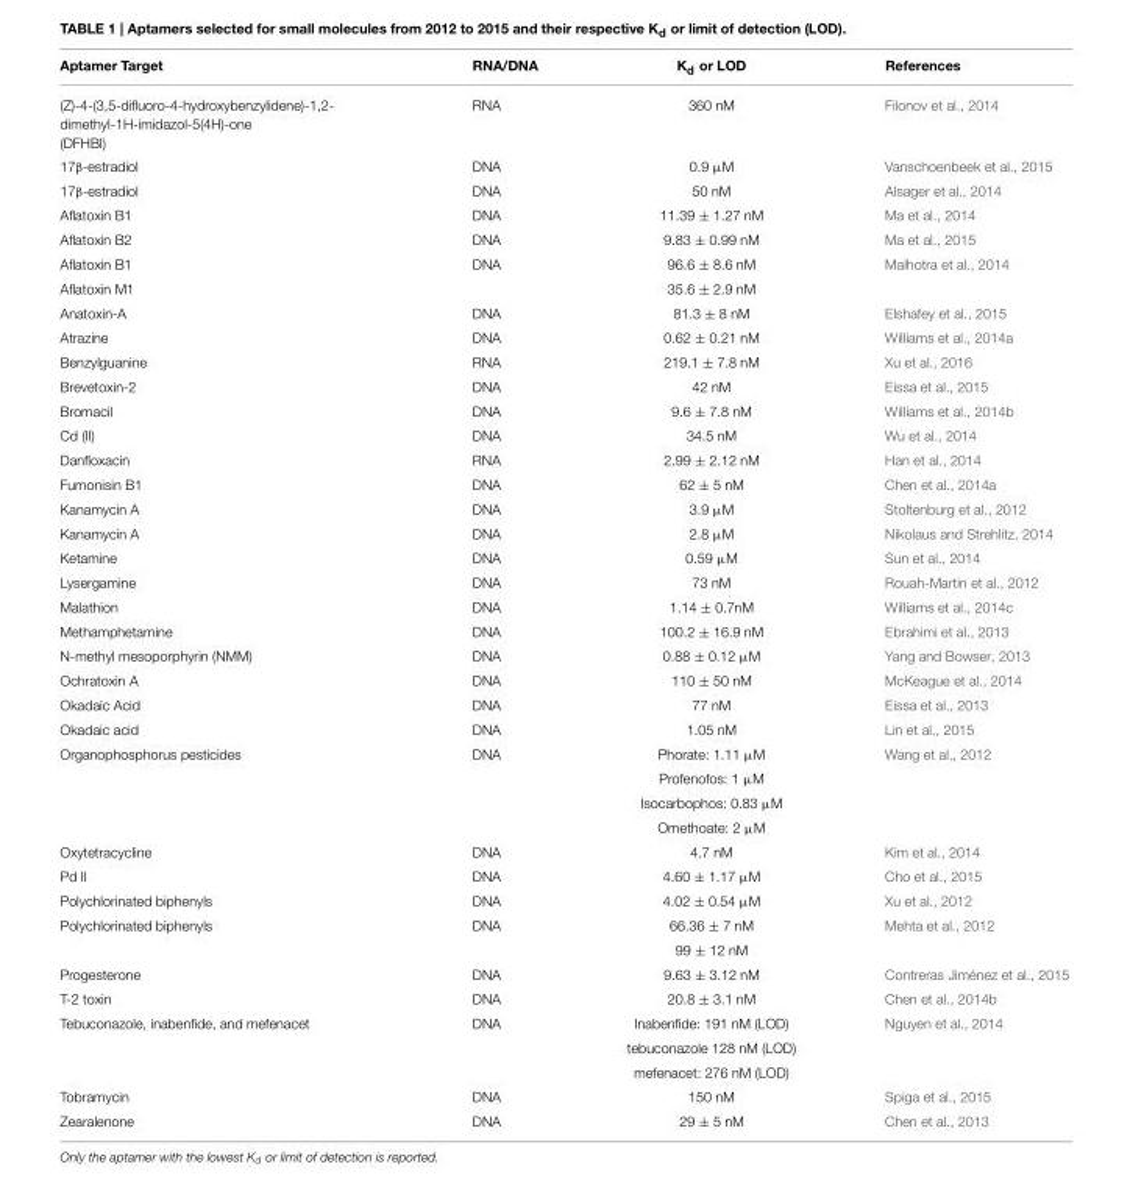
<table><thead><tr><td>Aptamer Target</td><td>RNA/DNA</td><td>K<sub>d</sub> or LOD</td><td>References</td></tr></thead><tbody><tr><td>(Z)-4-(3,5-difluoro-4-hydroxybenzylidene)-1,2- dimethyl-1H-imidazol-5(4H)-one (DFHBI)</td><td>RNA</td><td>360 nM</td><td>Filonov et al., 2014</td></tr><tr><td>17β-estradiol</td><td>DNA</td><td>0.9 µM</td><td>Vanschoenbeek et al., 2015</td></tr><tr><td>17β-estradiol</td><td>DNA</td><td>50 nM</td><td>Alsager et al., 2014</td></tr><tr><td>Aflatoxin B1</td><td>DNA</td><td>11.39 ± 1.27 nM</td><td>Ma et al., 2014</td></tr><tr><td>Aflatoxin B2</td><td>DNA</td><td>9.83 ± 0.99 nM</td><td>Ma et al., 2015</td></tr><tr><td>Aflatoxin B1</td><td>DNA</td><td>96.6 ± 8.6 nM</td><td>Malhotra et al., 2014</td></tr><tr><td>Aflatoxin M1</td><td></td><td>35.6 ± 2.9 nM</td><td></td></tr><tr><td>Anatoxin-A</td><td>DNA</td><td>81.3 ± 8 nM</td><td>Elshafey et al., 2015</td></tr><tr><td>Atrazine</td><td>DNA</td><td>0.62 ± 0.21 nM</td><td>Williams et al., 2014a</td></tr><tr><td>Benzylguanine</td><td>RNA</td><td>219.1 ± 7.8 nM</td><td>Xu et al., 2016</td></tr><tr><td>Brevetoxin-2</td><td>DNA</td><td>42 nM</td><td>Eissa et al., 2015</td></tr><tr><td>Bromacil</td><td>DNA</td><td>9.6 ± 7.8 nM</td><td>Williams et al., 2014b</td></tr><tr><td>Cd (II)</td><td>DNA</td><td>34.5 nM</td><td>Wu et al., 2014</td></tr><tr><td>Danfloxacin</td><td>RNA</td><td>2.99 ± 2.12 nM</td><td>Han et al., 2014</td></tr><tr><td>Fumonisin B1</td><td>DNA</td><td>62 ± 5 nM</td><td>Chen et al., 2014a</td></tr><tr><td>Kanamycin A</td><td>DNA</td><td>3.9 µM</td><td>Stoltenburg et al., 2012</td></tr><tr><td>Kanamycin A</td><td>DNA</td><td>2.8 µM</td><td>Nikolaus and Strehlitz, 2014</td></tr><tr><td>Ketamine</td><td>DNA</td><td>0.59 µM</td><td>Sun et al., 2014</td></tr><tr><td>Lysergamine</td><td>DNA</td><td>73 nM</td><td>Rouah-Martin et al., 2012</td></tr><tr><td>Malathion</td><td>DNA</td><td>1.14 ± 0.7nM</td><td>Williams et al., 2014c</td></tr><tr><td>Methamphetamine</td><td>DNA</td><td>100.2 ± 16.9 nM</td><td>Ebrahimi et al., 2013</td></tr><tr><td>N-methyl mesoporphyrin (NMM)</td><td>DNA</td><td>0.88 ± 0.12 µM</td><td>Yang and Bowser, 2013</td></tr><tr><td>Ochratoxin A</td><td>DNA</td><td>110 ± 50 nM</td><td>McKeague et al., 2014</td></tr><tr><td>Okadaic Acid</td><td>DNA</td><td>77 nM</td><td>Eissa et al., 2013</td></tr><tr><td>Okadaic acid</td><td>DNA</td><td>1.05 nM</td><td>Lin et al., 2015</td></tr><tr><td rowspan="4">Organophosphorus pesticides</td><td>DNA</td><td>Phorate: 1.11 µM</td><td>Wang et al., 2012</td></tr><tr><td></td><td>Profenofos: 1 µM</td><td></td></tr><tr><td></td><td>Isocarbophos: 0.83 µM</td><td></td></tr><tr><td></td><td>Omethoate: 2 µM</td><td></td></tr><tr><td>Oxytetracycline</td><td>DNA</td><td>4.7 nM</td><td>Kim et al., 2014</td></tr><tr><td>Pd II</td><td>DNA</td><td>4.60 ± 1.17 µM</td><td>Cho et al., 2015</td></tr><tr><td>Polychlorinated biphenyls</td><td>DNA</td><td>4.02 ± 0.54 µM</td><td>Xu et al., 2012</td></tr><tr><td rowspan="2">Polychlorinated biphenyls</td><td>DNA</td><td>66.36 ± 7 nM</td><td>Mehta et al., 2012</td></tr><tr><td></td><td>99 ± 12 nM</td><td></td></tr><tr><td>Progesterone</td><td>DNA</td><td>9.63 ± 3.12 nM</td><td>Contreras Jiménez et al., 2015</td></tr><tr><td>T-2 toxin</td><td>DNA</td><td>20.8 ± 3.1 nM</td><td>Chen et al., 2014b</td></tr><tr><td rowspan="3">Tebuconazole, inabenfide, and mefenacet</td><td>DNA</td><td>Inabenfide: 191 nM (LOD)</td><td>Nguyen et al., 2014</td></tr><tr><td></td><td>tebuconazole 128 nM (LOD)</td><td></td></tr><tr><td></td><td>mefenacet: 276 nM (LOD)</td><td></td></tr><tr><td>Tobramycin</td><td>DNA</td><td>150 nM</td><td>Spiga et al., 2015</td></tr><tr><td>Zearalenone</td><td>DNA</td><td>29 ± 5 nM</td><td>Chen et al., 2013</td></tr></tbody></table>